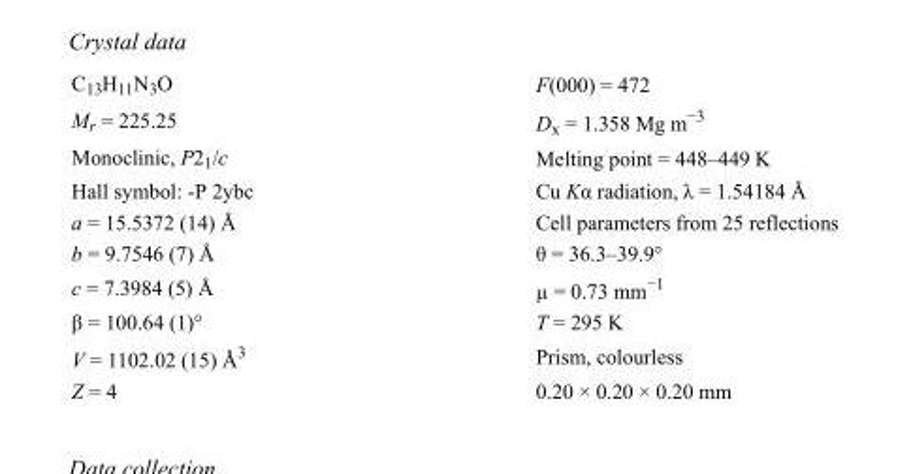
<table><tbody><tr><td>C<sub>13</sub>H<sub>11</sub>N<sub>3</sub>O</td><td>F(000) = 472</td></tr><tr><td>M<sub>r</sub> = 225.25</td><td>D<sub>x</sub> = 1.358 Mg m<sup>−3</sup></td></tr><tr><td>Monoclinic, P2<sub>1</sub>/c</td><td>Melting point = 448–449 K</td></tr><tr><td>Hall symbol: -P 2ybc</td><td>Cu Kα radiation, λ = 1.54184 Å</td></tr><tr><td>a = 15.5372 (14) Å</td><td>Cell parameters from 25 reflections</td></tr><tr><td>b = 9.7546 (7) Å</td><td>θ = 36.3–39.9°</td></tr><tr><td>c = 7.3984 (5) Å</td><td>µ = 0.73 mm<sup>−1</sup></td></tr><tr><td>β = 100.64 (1)°</td><td>T = 295 K</td></tr><tr><td>V = 1102.02 (15) Å<sup>3</sup></td><td>Prism, colourless</td></tr><tr><td>Z = 4</td><td>0.20 × 0.20 × 0.20 mm</td></tr></tbody></table>